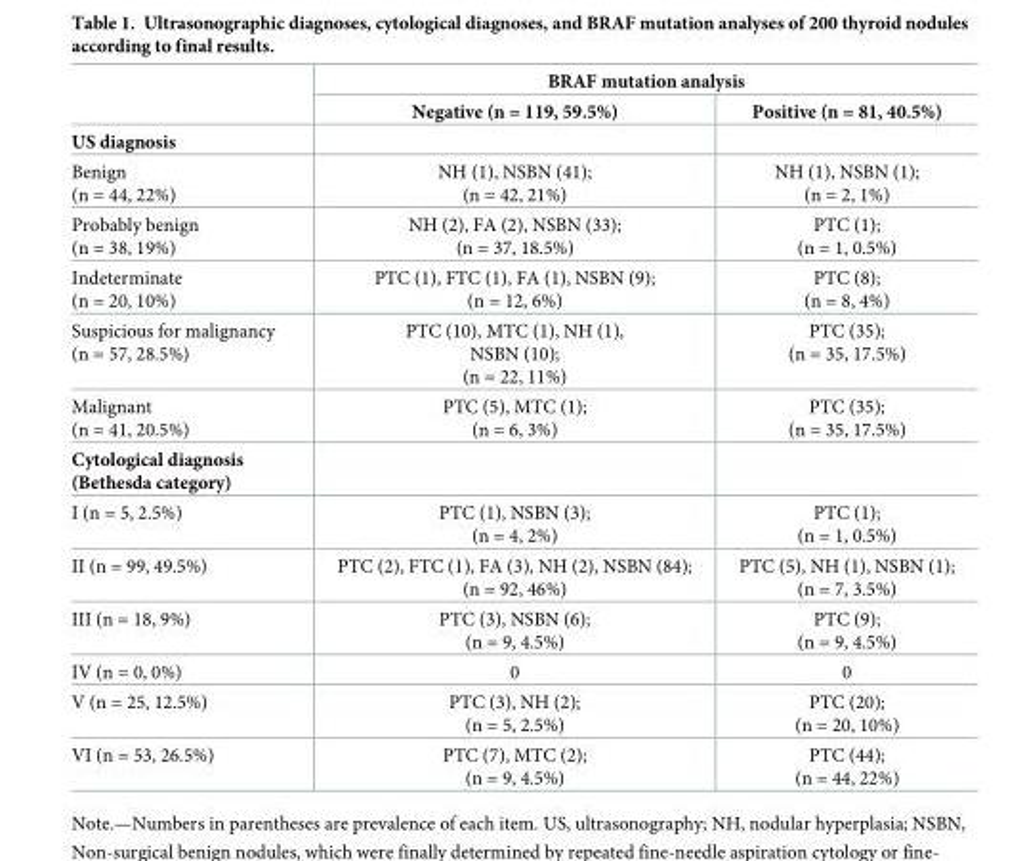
<table><thead><tr><td rowspan="2"></td><td colspan="2">BRAF mutation analysis</td></tr><tr><td>Negative (n = 119, 59.5%)</td><td>Positive (n = 81, 40.5%)</td></tr></thead><tbody><tr><td colspan="3">US diagnosis</td></tr><tr><td>Benign (n = 44, 22%)</td><td>NH (1), NSBN (41); (n = 42, 21%)</td><td>NH (1), NSBN (1); (n = 2, 1%)</td></tr><tr><td>Probably benign (n = 38, 19%)</td><td>NH (2), FA (2), NSBN (33); (n = 37, 18.5%)</td><td>PTC (1); (n = 1, 0.5%)</td></tr><tr><td>Indeterminate (n = 20, 10%)</td><td>PTC (1), FTC (1), FA (1), NSBN (9); (n = 12, 6%)</td><td>PTC (8); (n = 8, 4%)</td></tr><tr><td>Suspicious for malignancy (n = 57, 28.5%)</td><td>PTC (10), MTC (1), NH (1), NSBN (10); (n = 22, 11%)</td><td>PTC (35); (n = 35, 17.5%)</td></tr><tr><td>Malignant (n = 41, 20.5%)</td><td>PTC (5), MTC (1); (n = 6, 3%)</td><td>PTC (35); (n = 35, 17.5%)</td></tr><tr><td colspan="3">Cytological diagnosis (Bethesda category)</td></tr><tr><td>I (n = 5, 2.5%)</td><td>PTC (1), NSBN (3); (n = 4, 2%)</td><td>PTC (1); (n = 1, 0.5%)</td></tr><tr><td>II (n = 99, 49.5%)</td><td>PTC (2), FTC (1), FA (3), NH (2), NSBN (84); (n = 92, 46%)</td><td>PTC (5), NH (1), NSBN (1); (n = 7, 3.5%)</td></tr><tr><td>III (n = 18, 9%)</td><td>PTC (3), NSBN (6); (n = 9, 4.5%)</td><td>PTC (9); (n = 9, 4.5%)</td></tr><tr><td>IV (n = 0, 0%)</td><td>0</td><td>0</td></tr><tr><td>V (n = 25, 12.5%)</td><td>PTC (3), NH (2); (n = 5, 2.5%)</td><td>PTC (20); (n = 20, 10%)</td></tr><tr><td>VI (n = 53, 26.5%)</td><td>PTC (7), MTC (2); (n = 9, 4.5%)</td><td>PTC (44); (n = 44, 22%)</td></tr></tbody></table>